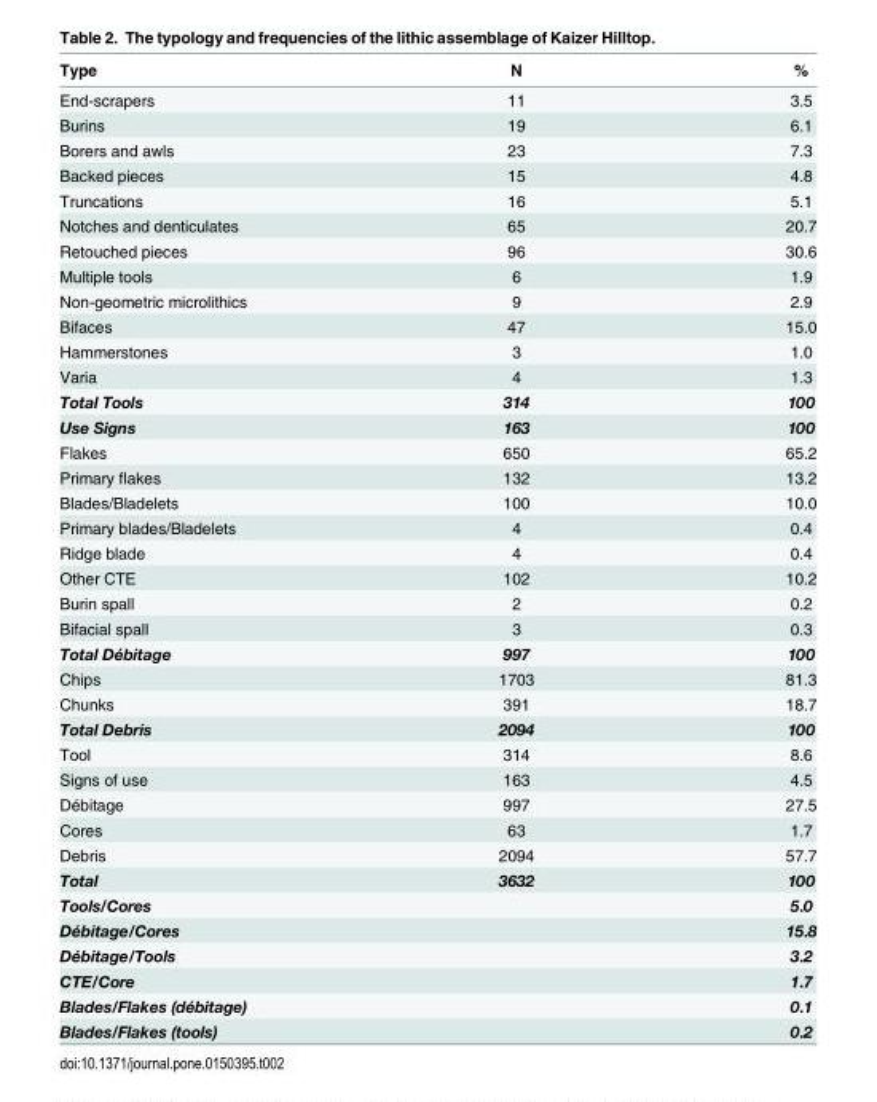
<table><thead><tr><td>Type</td><td>N</td><td>%</td></tr></thead><tbody><tr><td>End-scrapers</td><td>11</td><td>3.5</td></tr><tr><td>Burins</td><td>19</td><td>6.1</td></tr><tr><td>Borers and awls</td><td>23</td><td>7.3</td></tr><tr><td>Backed pieces</td><td>15</td><td>4.8</td></tr><tr><td>Truncations</td><td>16</td><td>5.1</td></tr><tr><td>Notches and denticulates</td><td>65</td><td>20.7</td></tr><tr><td>Retouched pieces</td><td>96</td><td>30.6</td></tr><tr><td>Multiple tools</td><td>6</td><td>1.9</td></tr><tr><td>Non-geometric microlithics</td><td>9</td><td>2.9</td></tr><tr><td>Bifaces</td><td>47</td><td>15.0</td></tr><tr><td>Hammerstones</td><td>3</td><td>1.0</td></tr><tr><td>Varia</td><td>4</td><td>1.3</td></tr><tr><td>Total Tools</td><td>314</td><td>100</td></tr><tr><td>Use Signs</td><td>163</td><td>100</td></tr><tr><td>Flakes</td><td>650</td><td>65.2</td></tr><tr><td>Primary flakes</td><td>132</td><td>13.2</td></tr><tr><td>Blades/Bladelets</td><td>100</td><td>10.0</td></tr><tr><td>Primary blades/Bladelets</td><td>4</td><td>0.4</td></tr><tr><td>Ridge blade</td><td>4</td><td>0.4</td></tr><tr><td>Other CTE</td><td>102</td><td>10.2</td></tr><tr><td>Burin spall</td><td>2</td><td>0.2</td></tr><tr><td>Bifacial spall</td><td>3</td><td>0.3</td></tr><tr><td>Total Débitage</td><td>997</td><td>100</td></tr><tr><td>Chips</td><td>1703</td><td>81.3</td></tr><tr><td>Chunks</td><td>391</td><td>18.7</td></tr><tr><td>Total Debris</td><td>2094</td><td>100</td></tr><tr><td>Tool</td><td>314</td><td>8.6</td></tr><tr><td>Signs of use</td><td>163</td><td>4.5</td></tr><tr><td>Débitage</td><td>997</td><td>27.5</td></tr><tr><td>Cores</td><td>63</td><td>1.7</td></tr><tr><td>Debris</td><td>2094</td><td>57.7</td></tr><tr><td>Total</td><td>3632</td><td>100</td></tr><tr><td>Tools/Cores</td><td></td><td>5.0</td></tr><tr><td>Débitage/Cores</td><td></td><td>15.8</td></tr><tr><td>Débitage/Tools</td><td></td><td>3.2</td></tr><tr><td>CTE/Core</td><td></td><td>1.7</td></tr><tr><td>Blades/Flakes (débitage)</td><td></td><td>0.1</td></tr><tr><td>Blades/Flakes (tools)</td><td></td><td>0.2</td></tr></tbody></table>